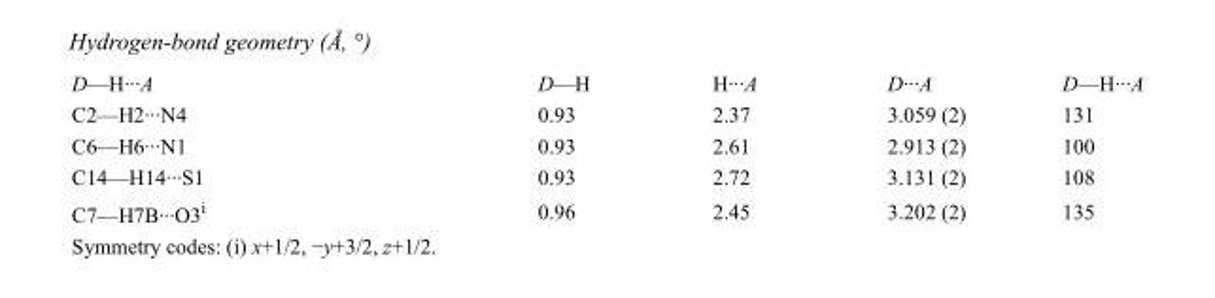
<table><tbody><tr><td>D—H···A</td><td>D—H</td><td>H···A</td><td>D···A</td><td>D—H···A</td></tr><tr><td>C2—H2···N4</td><td>0.93</td><td>2.37</td><td>3.059 (2)</td><td>131</td></tr><tr><td>C6—H6···N1</td><td>0.93</td><td>2.61</td><td>2.913 (2)</td><td>100</td></tr><tr><td>C14—H14···S1</td><td>0.93</td><td>2.72</td><td>3.131 (2)</td><td>108</td></tr><tr><td>C7—H7B···O3<sup>i</sup></td><td>0.96</td><td>2.45</td><td>3.202 (2)</td><td>135</td></tr></tbody></table>